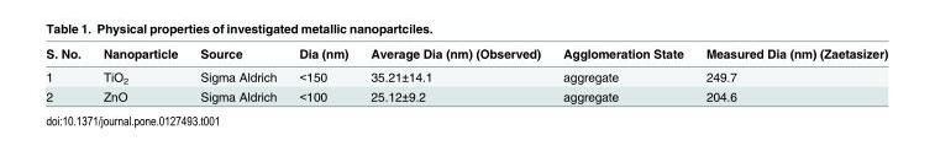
<table><thead><tr><td>S. No.</td><td>Nanoparticle</td><td>Source</td><td>Dia (nm)</td><td>Average Dia (nm) (Observed)</td><td>Agglomeration State</td><td>Measured Dia (nm) (Zaetasizer)</td></tr></thead><tbody><tr><td>1</td><td>TiO<sub>2</sub></td><td>Sigma Aldrich</td><td>&lt;150</td><td>35.21±14.1</td><td>aggregate</td><td>249.7</td></tr><tr><td>2</td><td>ZnO</td><td>Sigma Aldrich</td><td>&lt;100</td><td>25.12±9.2</td><td>aggregate</td><td>204.6</td></tr></tbody></table>